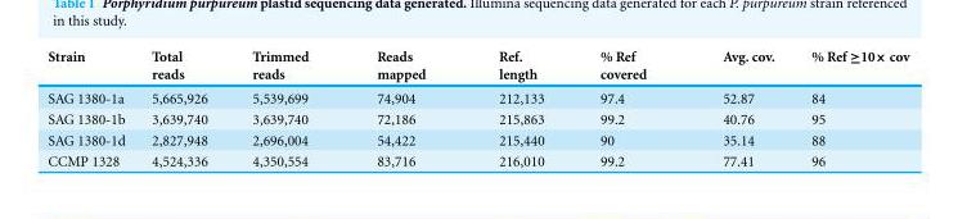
<table><thead><tr><td>Strain</td><td>Total reads</td><td>Trimmed reads</td><td>Reads mapped</td><td>Ref. length</td><td>% Ref covered</td><td>Avg. cov.</td><td>% Ref ≥10× cov</td></tr></thead><tbody><tr><td>SAG 1380-1a</td><td>5,665,926</td><td>5,539,699</td><td>74,904</td><td>212,133</td><td>97.4</td><td>52.87</td><td>84</td></tr><tr><td>SAG 1380-1b</td><td>3,639,740</td><td>3,639,740</td><td>72,186</td><td>215,863</td><td>99.2</td><td>40.76</td><td>95</td></tr><tr><td>SAG 1380-1d</td><td>2,827,948</td><td>2,696,004</td><td>54,422</td><td>215,440</td><td>90</td><td>35.14</td><td>88</td></tr><tr><td>CCMP 1328</td><td>4,524,336</td><td>4,350,554</td><td>83,716</td><td>216,010</td><td>99.2</td><td>77.41</td><td>96</td></tr></tbody></table>